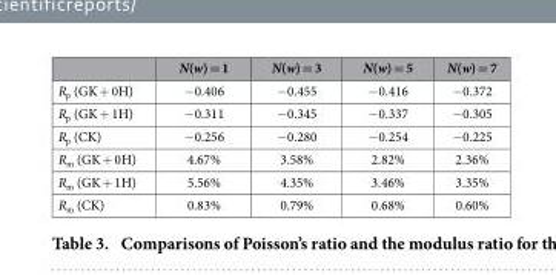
<table><thead><tr><td></td><td>N(w) = 1</td><td>N(w) = 3</td><td>N(w) = 5</td><td>N(w) = 7</td></tr></thead><tbody><tr><td>R<sub>p</sub> (GK + 0H)</td><td>− 0.406</td><td>− 0.455</td><td>− 0.416</td><td>− 0.372</td></tr><tr><td>R<sub>p</sub> (GK + 1H)</td><td>− 0.311</td><td>− 0.345</td><td>− 0.337</td><td>− 0.305</td></tr><tr><td>R<sub>p</sub> (CK)</td><td>− 0.256</td><td>− 0.280</td><td>− 0.254</td><td>− 0.225</td></tr><tr><td>R<sub>m</sub> (GK + 0H)</td><td>4.67%</td><td>3.58%</td><td>2.82%</td><td>2.36%</td></tr><tr><td>R<sub>m</sub> (GK + 1H)</td><td>5.56%</td><td>4.35%</td><td>3.46%</td><td>3.35%</td></tr><tr><td>R<sub>m</sub> (CK)</td><td>0.83%</td><td>0.79%</td><td>0.68%</td><td>0.60%</td></tr></tbody></table>